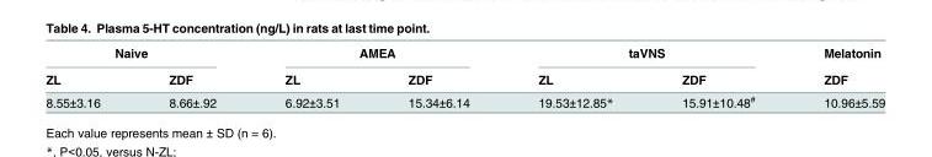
<table><thead><tr><td colspan="2">Naive</td><td colspan="2">AMEA</td><td colspan="2">taVNS</td><td rowspan="2">Melatonin ZDF</td></tr><tr><td>ZL</td><td>ZDF</td><td>ZL</td><td>ZDF</td><td>ZL</td><td>ZDF</td></tr></thead><tbody><tr><td>8.55±3.16</td><td>8.66±.92</td><td>6.92±3.51</td><td>15.34±6.14</td><td>19.53±12.85*</td><td>15.91±10.48<sup>#</sup></td><td>10.96±5.59</td></tr></tbody></table>